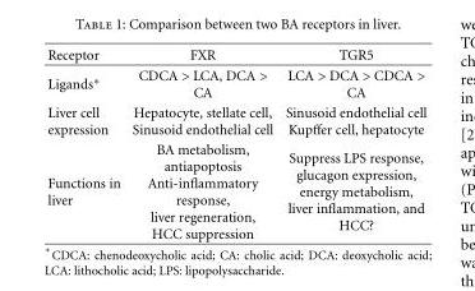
<table><thead><tr><td>Receptor</td><td>FXR</td><td>TGR5</td></tr></thead><tbody><tr><td>Ligands∗</td><td>CDCA &gt; LCA, DCA &gt; CA</td><td>LCA &gt; DCA &gt; CDCA &gt; CA</td></tr><tr><td>Liver cell expression</td><td>Hepatocyte, stellate cell, Sinusoid endothelial cell</td><td>Sinusoid endothelial cell Kupffer cell, hepatocyte</td></tr><tr><td>Functions in liver</td><td>BA metabolism, antiapoptosis Anti-inflammatory response, liver regeneration, HCC suppression</td><td>Suppress LPS response, glucagon expression, energy metabolism, liver inflammation, and HCC?</td></tr></tbody></table>